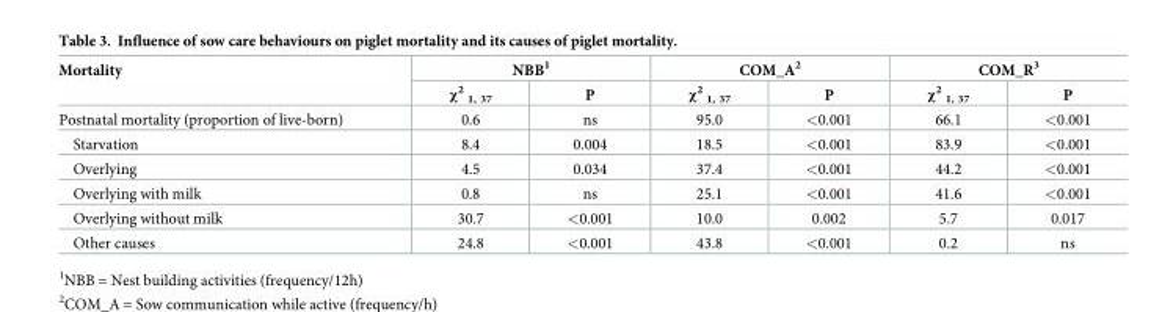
<table><thead><tr><td rowspan="2">Mortality</td><td colspan="2">NBB<sup>1</sup></td><td colspan="2">COM_A<sup>2</sup></td><td colspan="2">COM_R<sup>3</sup></td></tr><tr><td>χ<sup>2</sup> <sub>1, 37</sub></td><td>P</td><td>χ<sup>2</sup> <sub>1, 37</sub></td><td>P</td><td>χ<sup>2</sup> <sub>1, 37</sub></td><td>P</td></tr></thead><tbody><tr><td>Postnatal mortality (proportion of live-born)</td><td>0.6</td><td>ns</td><td>95.0</td><td>&lt;0.001</td><td>66.1</td><td>&lt;0.001</td></tr><tr><td>Starvation</td><td>8.4</td><td>0.004</td><td>18.5</td><td>&lt;0.001</td><td>83.9</td><td>&lt;0.001</td></tr><tr><td>Overlying</td><td>4.5</td><td>0.034</td><td>37.4</td><td>&lt;0.001</td><td>44.2</td><td>&lt;0.001</td></tr><tr><td>Overlying with milk</td><td>0.8</td><td>ns</td><td>25.1</td><td>&lt;0.001</td><td>41.6</td><td>&lt;0.001</td></tr><tr><td>Overlying without milk</td><td>30.7</td><td>&lt;0.001</td><td>10.0</td><td>0.002</td><td>5.7</td><td>0.017</td></tr><tr><td>Other causes</td><td>24.8</td><td>&lt;0.001</td><td>43.8</td><td>&lt;0.001</td><td>0.2</td><td>ns</td></tr></tbody></table>